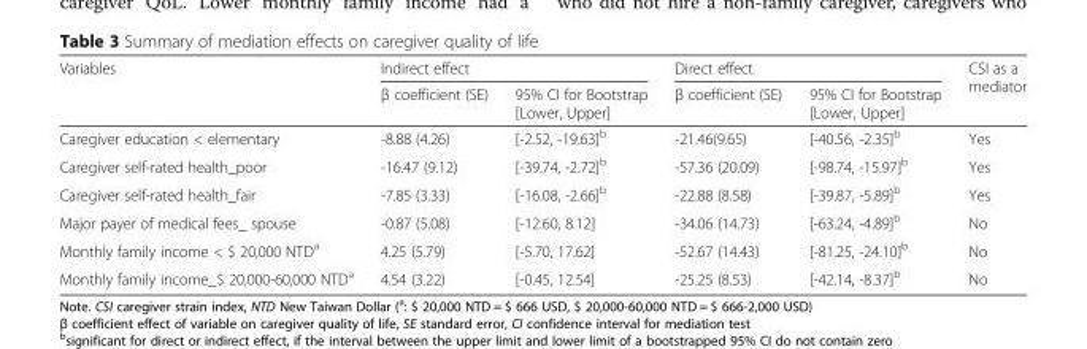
<table><thead><tr><td rowspan="2">Variables</td><td colspan="2">Indirect effect</td><td colspan="2">Direct effect</td><td rowspan="2">CSI as a mediator</td></tr><tr><td>β coefficient (SE)</td><td>95% CI for Bootstrap [Lower, Upper]</td><td>β coefficient (SE)</td><td>95% CI for Bootstrap [Lower, Upper]</td></tr></thead><tbody><tr><td>Caregiver education &lt; elementary</td><td>-8.88 (4.26)</td><td>[-2.52, -19.63]<sup>b</sup></td><td>-21.46(9.65)</td><td>[-40.56, -2.35]<sup>b</sup></td><td>Yes</td></tr><tr><td>Caregiver self-rated health_poor</td><td>-16.47 (9.12)</td><td>[-39.74, -2.72]<sup>b</sup></td><td>-57.36 (20.09)</td><td>[-98.74, -15.97]<sup>b</sup></td><td>Yes</td></tr><tr><td>Caregiver self-rated health_fair</td><td>-7.85 (3.33)</td><td>[-16.08, -2.66]<sup>b</sup></td><td>-22.88 (8.58)</td><td>[-39.87, -5.89]<sup>b</sup></td><td>Yes</td></tr><tr><td>Major payer of medical fees_ spouse</td><td>-0.87 (5.08)</td><td>[-12.60, 8.12]</td><td>-34.06 (14.73)</td><td>[-63.24, -4.89]<sup>b</sup></td><td>No</td></tr><tr><td>Monthly family income &lt; $ 20,000 NTD<sup>a</sup></td><td>4.25 (5.79)</td><td>[-5.70, 17.62]</td><td>-52.67 (14.43)</td><td>[-81.25, -24.10]<sup>b</sup></td><td>No</td></tr><tr><td>Monthly family income_$ 20,000-60,000 NTD<sup>a</sup></td><td>4.54 (3.22)</td><td>[-0.45, 12.54]</td><td>-25.25 (8.53)</td><td>[-42.14, -8.37]<sup>b</sup></td><td>No</td></tr></tbody></table>